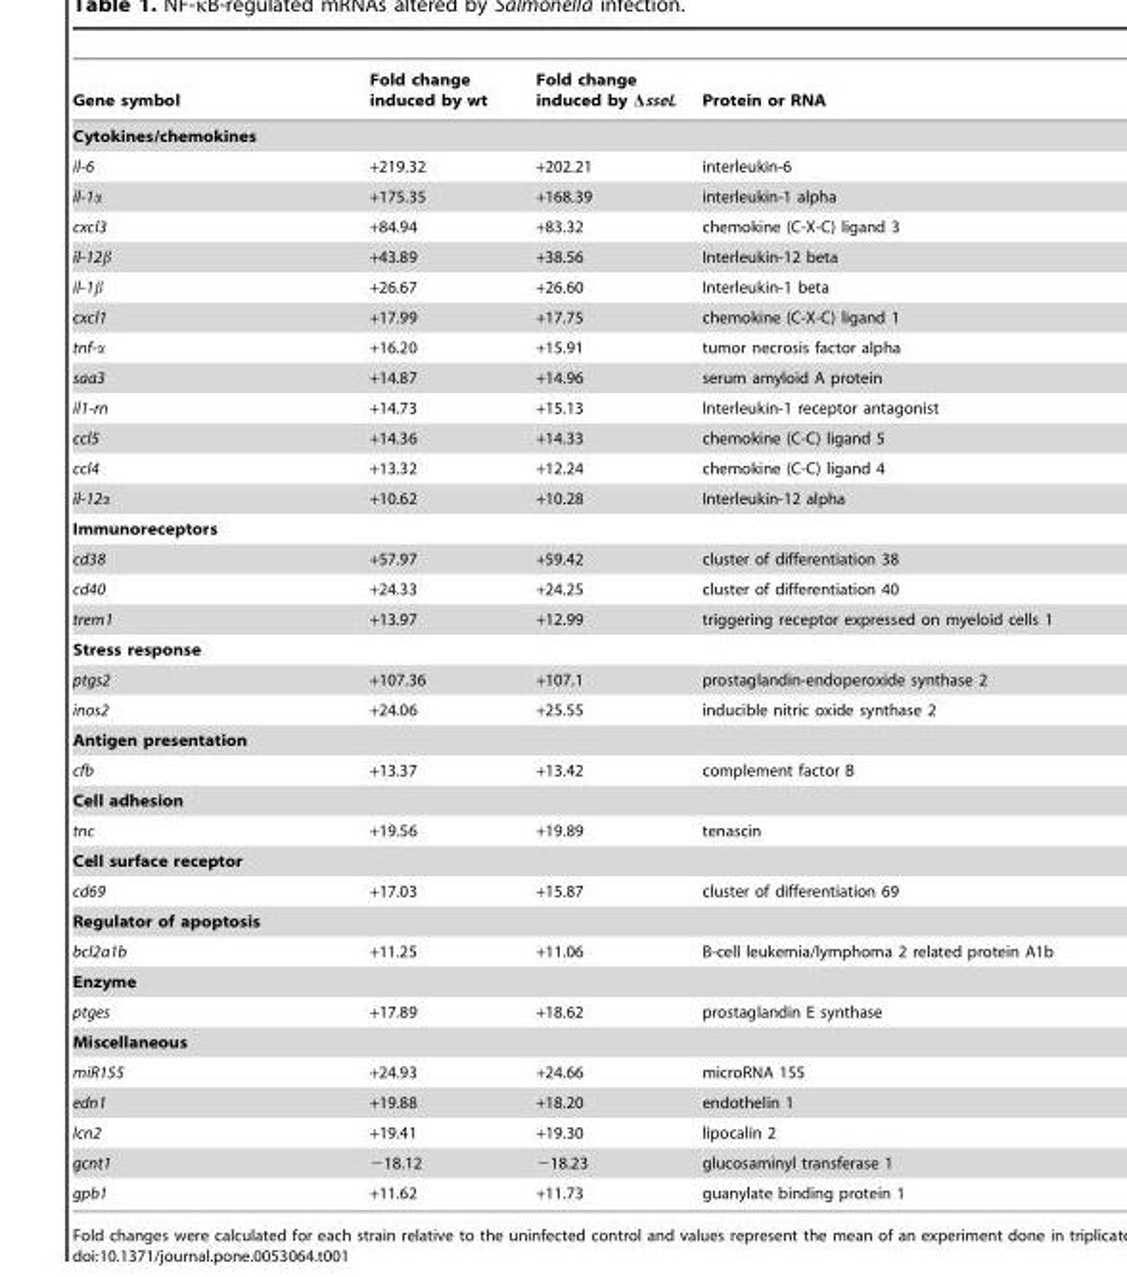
<table><thead><tr><td>Gene symbol</td><td>Fold change induced by wt</td><td>Fold change induced by ΔsseL</td><td>Protein or RNA</td></tr></thead><tbody><tr><td colspan="4">Cytokines/chemokines</td></tr><tr><td>il-6</td><td>+219.32</td><td>+202.21</td><td>interleukin-6</td></tr><tr><td>il-1α</td><td>+175.35</td><td>+168.39</td><td>interleukin-1 alpha</td></tr><tr><td>cxcl3</td><td>+84.94</td><td>+83.32</td><td>chemokine (C-X-C) ligand 3</td></tr><tr><td>il-12β</td><td>+43.89</td><td>+38.56</td><td>Interleukin-12 beta</td></tr><tr><td>il-1β</td><td>+26.67</td><td>+26.60</td><td>Interleukin-1 beta</td></tr><tr><td>cxcl1</td><td>+17.99</td><td>+17.75</td><td>chemokine (C-X-C) ligand 1</td></tr><tr><td>tnf-α</td><td>+16.20</td><td>+15.91</td><td>tumor necrosis factor alpha</td></tr><tr><td>saa3</td><td>+14.87</td><td>+14.96</td><td>serum amyloid A protein</td></tr><tr><td>il1-rn</td><td>+14.73</td><td>+15.13</td><td>Interleukin-1 receptor antagonist</td></tr><tr><td>ccl5</td><td>+14.36</td><td>+14.33</td><td>chemokine (C-C) ligand 5</td></tr><tr><td>ccl4</td><td>+13.32</td><td>+12.24</td><td>chemokine (C-C) ligand 4</td></tr><tr><td>il-12α</td><td>+10.62</td><td>+10.28</td><td>Interleukin-12 alpha</td></tr><tr><td colspan="4">Immunoreceptors</td></tr><tr><td>cd38</td><td>+57.97</td><td>+59.42</td><td>cluster of differentiation 38</td></tr><tr><td>cd40</td><td>+24.33</td><td>+24.25</td><td>cluster of differentiation 40</td></tr><tr><td>trem1</td><td>+13.97</td><td>+12.99</td><td>triggering receptor expressed on myeloid cells 1</td></tr><tr><td colspan="4">Stress response</td></tr><tr><td>ptgs2</td><td>+107.36</td><td>+107.1</td><td>prostaglandin-endoperoxide synthase 2</td></tr><tr><td>inos2</td><td>+24.06</td><td>+25.55</td><td>inducible nitric oxide synthase 2</td></tr><tr><td colspan="4">Antigen presentation</td></tr><tr><td>cfb</td><td>+13.37</td><td>+13.42</td><td>complement factor B</td></tr><tr><td colspan="4">Cell adhesion</td></tr><tr><td>tnc</td><td>+19.56</td><td>+19.89</td><td>tenascin</td></tr><tr><td colspan="4">Cell surface receptor</td></tr><tr><td>cd69</td><td>+17.03</td><td>+15.87</td><td>cluster of differentiation 69</td></tr><tr><td colspan="4">Regulator of apoptosis</td></tr><tr><td>bcl2a1b</td><td>+11.25</td><td>+11.06</td><td>B-cell leukemia/lymphoma 2 related protein A1b</td></tr><tr><td colspan="4">Enzyme</td></tr><tr><td>ptges</td><td>+17.89</td><td>+18.62</td><td>prostaglandin E synthase</td></tr><tr><td colspan="4">Miscellaneous</td></tr><tr><td>miR155</td><td>+24.93</td><td>+24.66</td><td>microRNA 155</td></tr><tr><td>edn1</td><td>+19.88</td><td>+18.20</td><td>endothelin 1</td></tr><tr><td>lcn2</td><td>+19.41</td><td>+19.30</td><td>lipocalin 2</td></tr><tr><td>gcnt1</td><td>−18.12</td><td>−18.23</td><td>glucosaminyl transferase 1</td></tr><tr><td>gpb1</td><td>+11.62</td><td>+11.73</td><td>guanylate binding protein 1</td></tr></tbody></table>